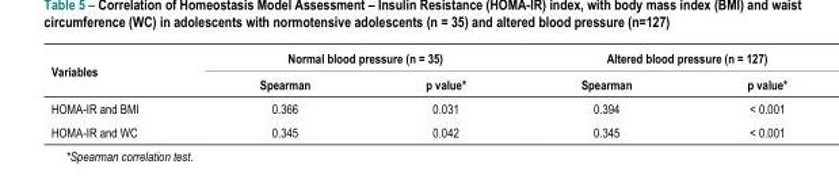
<table><thead><tr><td rowspan="2">Variables</td><td colspan="2">Normal blood pressure (n = 35)</td><td colspan="2">Altered blood pressure (n = 127)</td></tr><tr><td>Spearman</td><td>p value*</td><td>Spearman</td><td>p value*</td></tr></thead><tbody><tr><td>HOMA-IR and BMI</td><td>0.366</td><td>0.031</td><td>0.394</td><td>&lt; 0.001</td></tr><tr><td>HOMA-IR and WC</td><td>0.345</td><td>0.042</td><td>0.345</td><td>&lt; 0.001</td></tr></tbody></table>